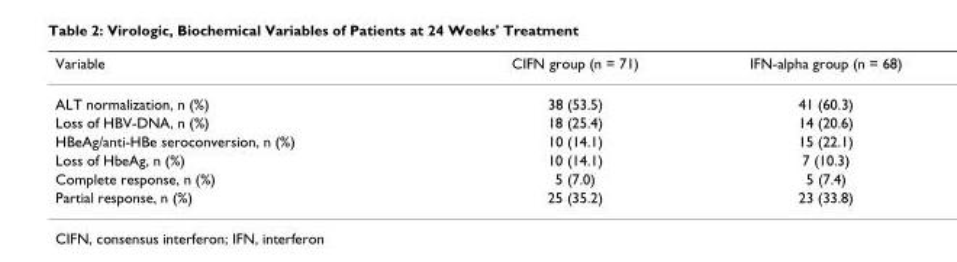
<table><thead><tr><td>Variable</td><td>CIFN group (n = 71)</td><td>IFN-alpha group (n = 68)</td></tr></thead><tbody><tr><td>ALT normalization, n (%)</td><td>38 (53.5)</td><td>41 (60.3)</td></tr><tr><td>Loss of HBV-DNA, n (%)</td><td>18 (25.4)</td><td>14 (20.6)</td></tr><tr><td>HBeAg/anti-HBe seroconversion, n (%)</td><td>10 (14.1)</td><td>15 (22.1)</td></tr><tr><td>Loss of HbeAg, n (%)</td><td>10 (14.1)</td><td>7 (10.3)</td></tr><tr><td>Complete response, n (%)</td><td>5 (7.0)</td><td>5 (7.4)</td></tr><tr><td>Partial response, n (%)</td><td>25 (35.2)</td><td>23 (33.8)</td></tr></tbody></table>